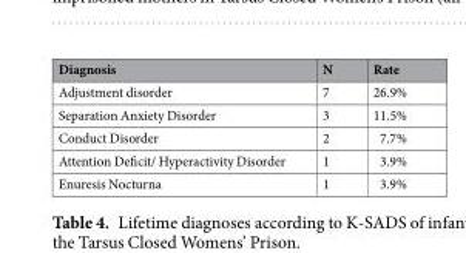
<table><thead><tr><td>Diagnosis</td><td>N</td><td>Rate</td></tr></thead><tbody><tr><td>Adjustment disorder</td><td>7</td><td>26.9%</td></tr><tr><td>Separation Anxiety Disorder</td><td>3</td><td>11.5%</td></tr><tr><td>Conduct Disorder</td><td>2</td><td>7.7%</td></tr><tr><td>Attention Deficit/ Hyperactivity Disorder</td><td>1</td><td>3.9%</td></tr><tr><td>Enuresis Nocturna</td><td>1</td><td>3.9%</td></tr></tbody></table>